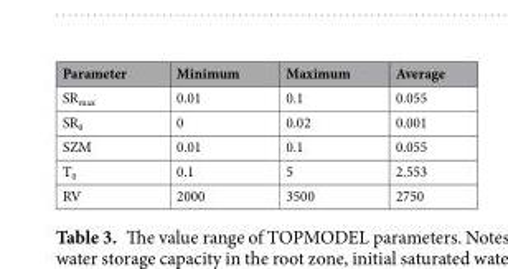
<table><thead><tr><td>Parameter</td><td>Minimum</td><td>Maximum</td><td>Average</td></tr></thead><tbody><tr><td>SR<sub>max</sub></td><td>0.01</td><td>0.1</td><td>0.055</td></tr><tr><td>SR<sub>0</sub></td><td>0</td><td>0.02</td><td>0.001</td></tr><tr><td>SZM</td><td>0.01</td><td>0.1</td><td>0.055</td></tr><tr><td>T<sub>0</sub></td><td>0.1</td><td>5</td><td>2.553</td></tr><tr><td>RV</td><td>2000</td><td>3500</td><td>2750</td></tr></tbody></table>